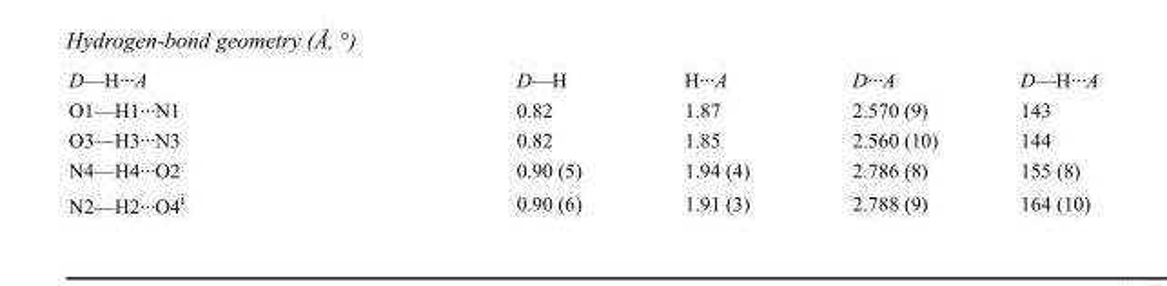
<table><tbody><tr><td>D—H···A</td><td>D—H</td><td>H···A</td><td>D···A</td><td>D—H···A</td></tr><tr><td>O1—H1···N1</td><td>0.82</td><td>1.87</td><td>2.570 (9)</td><td>143</td></tr><tr><td>O3—H3···N3</td><td>0.82</td><td>1.85</td><td>2.560 (10)</td><td>144</td></tr><tr><td>N4—H4···O2</td><td>0.90 (5)</td><td>1.94 (4)</td><td>2.786 (8)</td><td>155 (8)</td></tr><tr><td>N2—H2···O4<sup>i</sup></td><td>0.90 (6)</td><td>1.91 (3)</td><td>2.788 (9)</td><td>164 (10)</td></tr></tbody></table>